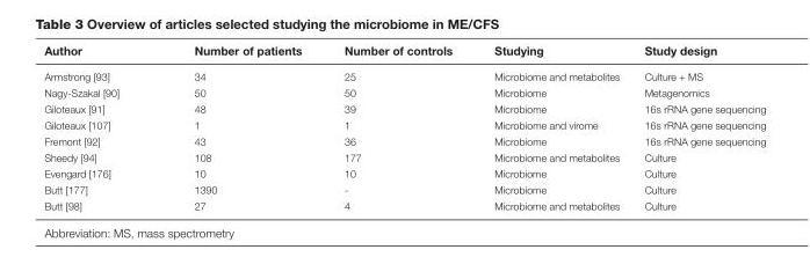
<table><thead><tr><td>Author</td><td>Number of patients</td><td>Number of controls</td><td>Studying</td><td>Study design</td></tr></thead><tbody><tr><td>Armstrong [93]</td><td>34</td><td>25</td><td>Microbiome and metabolites</td><td>Culture + MS</td></tr><tr><td>Nagy-Szakal [90]</td><td>50</td><td>50</td><td>Microbiome</td><td>Metagenomics</td></tr><tr><td>Giloteaux [91]</td><td>48</td><td>39</td><td>Microbiome</td><td>16s rRNA gene sequencing</td></tr><tr><td>Giloteaux [107]</td><td>1</td><td>1</td><td>Microbiome and virome</td><td>16s rRNA gene sequencing</td></tr><tr><td>Fremont [92]</td><td>43</td><td>36</td><td>Microbiome</td><td>16s rRNA gene sequencing</td></tr><tr><td>Sheedy [94]</td><td>108</td><td>177</td><td>Microbiome and metabolites</td><td>Culture</td></tr><tr><td>Evengard [176]</td><td>10</td><td>10</td><td>Microbiome</td><td>Culture</td></tr><tr><td>Butt [177]</td><td>1390</td><td>-</td><td>Microbiome</td><td>Culture</td></tr><tr><td>Butt [98]</td><td>27</td><td>4</td><td>Microbiome and metabolites</td><td>Culture</td></tr></tbody></table>